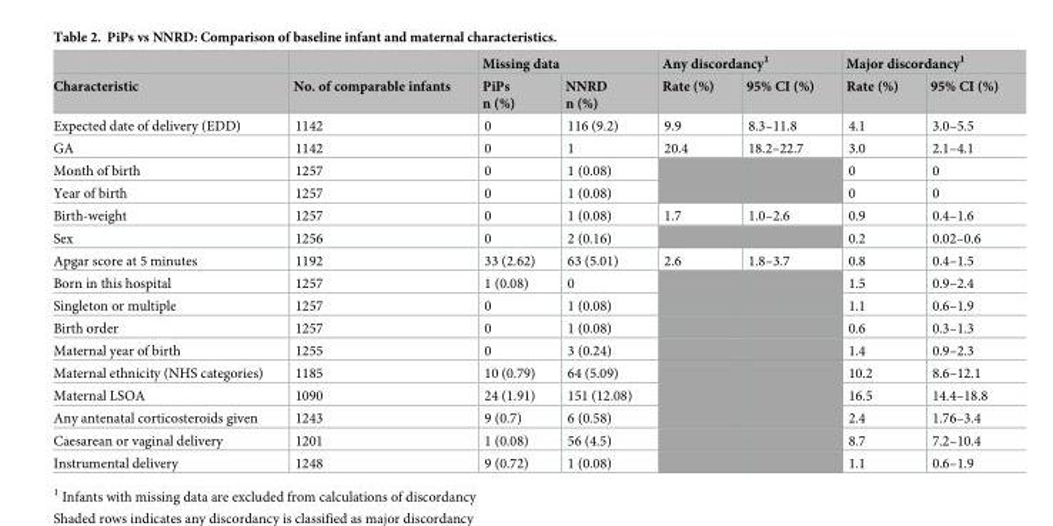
<table><thead><tr><td rowspan="2">Characteristic</td><td rowspan="2">No. of comparable infants</td><td colspan="2">Missing data</td><td colspan="2">Any discordancy<sup>1</sup></td><td colspan="2">Major discordancy<sup>1</sup></td></tr><tr><td>PiPs n (%)</td><td>NNRD n (%)</td><td>Rate (%)</td><td>95% CI (%)</td><td>Rate (%)</td><td>95% CI (%)</td></tr></thead><tbody><tr><td>Expected date of delivery (EDD)</td><td>1142</td><td>0</td><td>116 (9.2)</td><td>9.9</td><td>8.3–11.8</td><td>4.1</td><td>3.0–5.5</td></tr><tr><td>GA</td><td>1142</td><td>0</td><td>1</td><td>20.4</td><td>18.2–22.7</td><td>3.0</td><td>2.1–4.1</td></tr><tr><td>Month of birth</td><td>1257</td><td>0</td><td>1 (0.08)</td><td></td><td></td><td>0</td><td>0</td></tr><tr><td>Year of birth</td><td>1257</td><td>0</td><td>1 (0.08)</td><td></td><td></td><td>0</td><td>0</td></tr><tr><td>Birth-weight</td><td>1257</td><td>0</td><td>1 (0.08)</td><td>1.7</td><td>1.0–2.6</td><td>0.9</td><td>0.4–1.6</td></tr><tr><td>Sex</td><td>1256</td><td>0</td><td>2 (0.16)</td><td></td><td></td><td>0.2</td><td>0.02–0.6</td></tr><tr><td>Apgar score at 5 minutes</td><td>1192</td><td>33 (2.62)</td><td>63 (5.01)</td><td>2.6</td><td>1.8–3.7</td><td>0.8</td><td>0.4–1.5</td></tr><tr><td>Born in this hospital</td><td>1257</td><td>1 (0.08)</td><td>0</td><td></td><td></td><td>1.5</td><td>0.9–2.4</td></tr><tr><td>Singleton or multiple</td><td>1257</td><td>0</td><td>1 (0.08)</td><td></td><td></td><td>1.1</td><td>0.6–1.9</td></tr><tr><td>Birth order</td><td>1257</td><td>0</td><td>1 (0.08)</td><td></td><td></td><td>0.6</td><td>0.3–1.3</td></tr><tr><td>Maternal year of birth</td><td>1255</td><td>0</td><td>3 (0.24)</td><td></td><td></td><td>1.4</td><td>0.9–2.3</td></tr><tr><td>Maternal ethnicity (NHS categories)</td><td>1185</td><td>10 (0.79)</td><td>64 (5.09)</td><td></td><td></td><td>10.2</td><td>8.6–12.1</td></tr><tr><td>Maternal LSOA</td><td>1090</td><td>24 (1.91)</td><td>151 (12.08)</td><td></td><td></td><td>16.5</td><td>14.4–18.8</td></tr><tr><td>Any antenatal corticosteroids given</td><td>1243</td><td>9 (0.7)</td><td>6 (0.58)</td><td></td><td></td><td>2.4</td><td>1.76–3.4</td></tr><tr><td>Caesarean or vaginal delivery</td><td>1201</td><td>1 (0.08)</td><td>56 (4.5)</td><td></td><td></td><td>8.7</td><td>7.2–10.4</td></tr><tr><td>Instrumental delivery</td><td>1248</td><td>9 (0.72)</td><td>1 (0.08)</td><td></td><td></td><td>1.1</td><td>0.6–1.9</td></tr></tbody></table>